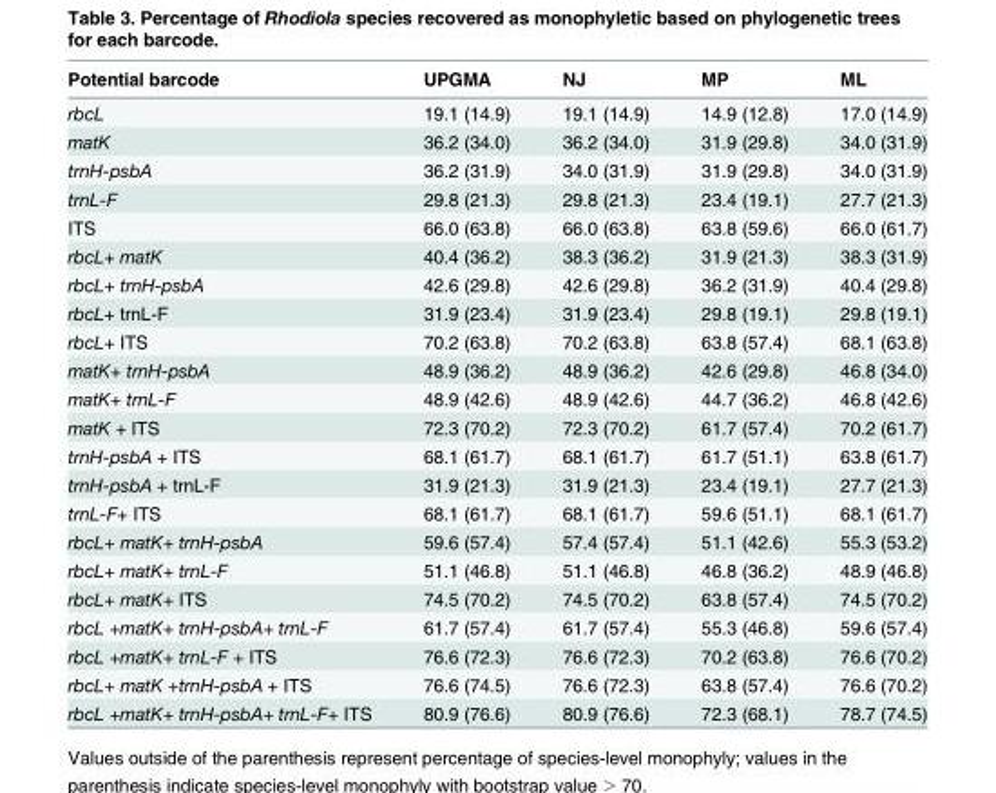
<table><thead><tr><td>Potential barcode</td><td>UPGMA</td><td>NJ</td><td>MP</td><td>ML</td></tr></thead><tbody><tr><td>rbcL</td><td>19.1 (14.9)</td><td>19.1 (14.9)</td><td>14.9 (12.8)</td><td>17.0 (14.9)</td></tr><tr><td>matK</td><td>36.2 (34.0)</td><td>36.2 (34.0)</td><td>31.9 (29.8)</td><td>34.0 (31.9)</td></tr><tr><td>trnH-psbA</td><td>36.2 (31.9)</td><td>34.0 (31.9)</td><td>31.9 (29.8)</td><td>34.0 (31.9)</td></tr><tr><td>trnL-F</td><td>29.8 (21.3)</td><td>29.8 (21.3)</td><td>23.4 (19.1)</td><td>27.7 (21.3)</td></tr><tr><td>ITS</td><td>66.0 (63.8)</td><td>66.0 (63.8)</td><td>63.8 (59.6)</td><td>66.0 (61.7)</td></tr><tr><td>rbcL+ matK</td><td>40.4 (36.2)</td><td>38.3 (36.2)</td><td>31.9 (21.3)</td><td>38.3 (31.9)</td></tr><tr><td>rbcL+ trnH-psbA</td><td>42.6 (29.8)</td><td>42.6 (29.8)</td><td>36.2 (31.9)</td><td>40.4 (29.8)</td></tr><tr><td>rbcL+ trnL-F</td><td>31.9 (23.4)</td><td>31.9 (23.4)</td><td>29.8 (19.1)</td><td>29.8 (19.1)</td></tr><tr><td>rbcL+ ITS</td><td>70.2 (63.8)</td><td>70.2 (63.8)</td><td>63.8 (57.4)</td><td>68.1 (63.8)</td></tr><tr><td>matK+ trnH-psbA</td><td>48.9 (36.2)</td><td>48.9 (36.2)</td><td>42.6 (29.8)</td><td>46.8 (34.0)</td></tr><tr><td>matK+ trnL-F</td><td>48.9 (42.6)</td><td>48.9 (42.6)</td><td>44.7 (36.2)</td><td>46.8 (42.6)</td></tr><tr><td>matK + ITS</td><td>72.3 (70.2)</td><td>72.3 (70.2)</td><td>61.7 (57.4)</td><td>70.2 (61.7)</td></tr><tr><td>trnH-psbA + ITS</td><td>68.1 (61.7)</td><td>68.1 (61.7)</td><td>61.7 (51.1)</td><td>63.8 (61.7)</td></tr><tr><td>trnH-psbA + trnL-F</td><td>31.9 (21.3)</td><td>31.9 (21.3)</td><td>23.4 (19.1)</td><td>27.7 (21.3)</td></tr><tr><td>trnL-F+ ITS</td><td>68.1 (61.7)</td><td>68.1 (61.7)</td><td>59.6 (51.1)</td><td>68.1 (61.7)</td></tr><tr><td>rbcL+ matK+ trnH-psbA</td><td>59.6 (57.4)</td><td>57.4 (57.4)</td><td>51.1 (42.6)</td><td>55.3 (53.2)</td></tr><tr><td>rbcL+ matK+ trnL-F</td><td>51.1 (46.8)</td><td>51.1 (46.8)</td><td>46.8 (36.2)</td><td>48.9 (46.8)</td></tr><tr><td>rbcL+ matK+ ITS</td><td>74.5 (70.2)</td><td>74.5 (70.2)</td><td>63.8 (57.4)</td><td>74.5 (70.2)</td></tr><tr><td>rbcL +matK+ trnH-psbA+ trnL-F</td><td>61.7 (57.4)</td><td>61.7 (57.4)</td><td>55.3 (46.8)</td><td>59.6 (57.4)</td></tr><tr><td>rbcL +matK+ trnL-F + ITS</td><td>76.6 (72.3)</td><td>76.6 (72.3)</td><td>70.2 (63.8)</td><td>76.6 (70.2)</td></tr><tr><td>rbcL+ matK +trnH-psbA + ITS</td><td>76.6 (74.5)</td><td>76.6 (72.3)</td><td>63.8 (57.4)</td><td>76.6 (70.2)</td></tr><tr><td>rbcL +matK+ trnH-psbA+ trnL-F+ ITS</td><td>80.9 (76.6)</td><td>80.9 (76.6)</td><td>72.3 (68.1)</td><td>78.7 (74.5)</td></tr></tbody></table>